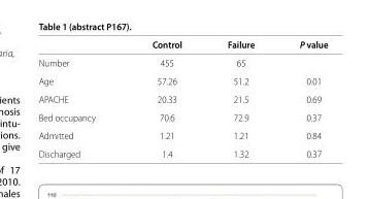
<table><thead><tr><td></td><td>Control</td><td>Failure</td><td>P value</td></tr></thead><tbody><tr><td>Number</td><td>455</td><td>65</td><td></td></tr><tr><td>Age</td><td>57.26</td><td>51.2</td><td>0.01</td></tr><tr><td>APACHE</td><td>20.33</td><td>21.5</td><td>0.69</td></tr><tr><td>Bed occupancy</td><td>70.6</td><td>72.9</td><td>0.37</td></tr><tr><td>Admitted</td><td>1.21</td><td>1.21</td><td>0.84</td></tr><tr><td>Discharged</td><td>1.4</td><td>1.32</td><td>0.37</td></tr></tbody></table>